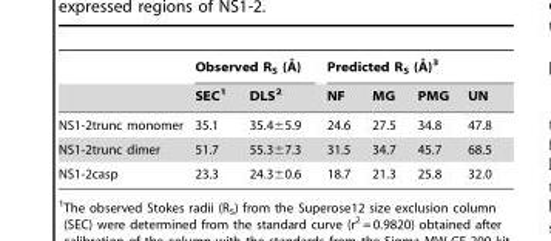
<table><thead><tr><td rowspan="2"></td><td colspan="2">Observed RS (A˚ )</td><td colspan="4">Predicted RS (A˚ )3</td></tr><tr><td>SEC<sup>1</sup></td><td>DLS<sup>2</sup></td><td>NF</td><td>MG</td><td>PMG</td><td>UN</td></tr></thead><tbody><tr><td>NS1-2trunc monomer</td><td>35.1</td><td>35.4±5.9</td><td>24.6</td><td>27.5</td><td>34.8</td><td>47.8</td></tr><tr><td>NS1-2trunc dimer</td><td>51.7</td><td>55.3±7.3</td><td>31.5</td><td>34.7</td><td>45.7</td><td>68.5</td></tr><tr><td>NS1-2casp</td><td>23.3</td><td>24.3±0.6</td><td>18.7</td><td>21.3</td><td>25.8</td><td>32.0</td></tr></tbody></table>